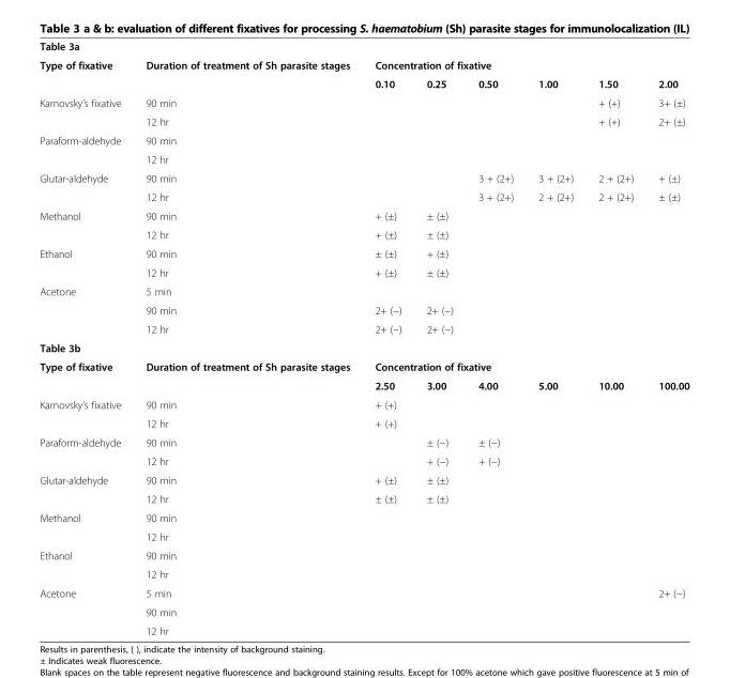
<table><tbody><tr><td colspan="8">Table 3a</td></tr><tr><td rowspan="2">Type of fixative</td><td rowspan="2">Duration of treatment of Sh parasite stages</td><td colspan="6">Concentration of fixative</td></tr><tr><td>0.10</td><td>0.25</td><td>0.50</td><td>1.00</td><td>1.50</td><td>2.00</td></tr><tr><td rowspan="2">Karnovsky’s fixative</td><td>90 min</td><td></td><td></td><td></td><td></td><td>+ (+)</td><td>3+ (±)</td></tr><tr><td>12 hr</td><td></td><td></td><td></td><td></td><td>+ (+)</td><td>2+ (±)</td></tr><tr><td rowspan="2">Paraform-aldehyde</td><td>90 min</td><td></td><td></td><td></td><td></td><td></td><td></td></tr><tr><td>12 hr</td><td></td><td></td><td></td><td></td><td></td><td></td></tr><tr><td rowspan="2">Glutar-aldehyde</td><td>90 min</td><td></td><td></td><td>3 + (2+)</td><td>3 + (2+)</td><td>2 + (2+)</td><td>+ (±)</td></tr><tr><td>12 hr</td><td></td><td></td><td>3 + (2+)</td><td>2 + (2+)</td><td>2 + (2+)</td><td>± (±)</td></tr><tr><td rowspan="2">Methanol</td><td>90 min</td><td>+ (±)</td><td>± (±)</td><td></td><td></td><td></td><td></td></tr><tr><td>12 hr</td><td>+ (±)</td><td>± (±)</td><td></td><td></td><td></td><td></td></tr><tr><td rowspan="2">Ethanol</td><td>90 min</td><td>± (±)</td><td>+ (±)</td><td></td><td></td><td></td><td></td></tr><tr><td>12 hr</td><td>+ (±)</td><td>± (±)</td><td></td><td></td><td></td><td></td></tr><tr><td rowspan="3">Acetone</td><td>5 min</td><td></td><td></td><td></td><td></td><td></td><td></td></tr><tr><td>90 min</td><td>2+ (−)</td><td>2+ (−)</td><td></td><td></td><td></td><td></td></tr><tr><td>12 hr</td><td>2+ (−)</td><td>2+ (−)</td><td></td><td></td><td></td><td></td></tr><tr><td colspan="8">Table 3b</td></tr><tr><td rowspan="2">Type of fixative</td><td>Duration of treatment of Sh parasite stages</td><td colspan="6">Concentration of fixative</td></tr><tr><td></td><td>2.50</td><td>3.00</td><td>4.00</td><td>5.00</td><td>10.00</td><td>100.00</td></tr><tr><td rowspan="2">Karnovsky’s fixative</td><td>90 min</td><td>+ (+)</td><td></td><td></td><td></td><td></td><td></td></tr><tr><td>12 hr</td><td>+ (+)</td><td></td><td></td><td></td><td></td><td></td></tr><tr><td rowspan="2">Paraform-aldehyde</td><td>90 min</td><td></td><td>± (−)</td><td>± (−)</td><td></td><td></td><td></td></tr><tr><td>12 hr</td><td></td><td>+ (−)</td><td>+ (−)</td><td></td><td></td><td></td></tr><tr><td rowspan="2">Glutar-aldehyde</td><td>90 min</td><td>+ (±)</td><td>± (±)</td><td></td><td></td><td></td><td></td></tr><tr><td>12 hr</td><td>± (±)</td><td>± (±)</td><td></td><td></td><td></td><td></td></tr><tr><td rowspan="2">Methanol</td><td>90 min</td><td></td><td></td><td></td><td></td><td></td><td></td></tr><tr><td>12 hr</td><td></td><td></td><td></td><td></td><td></td><td></td></tr><tr><td rowspan="2">Ethanol</td><td>90 min</td><td></td><td></td><td></td><td></td><td></td><td></td></tr><tr><td>12 hr</td><td></td><td></td><td></td><td></td><td></td><td></td></tr><tr><td rowspan="3">Acetone</td><td>5 min</td><td></td><td></td><td></td><td></td><td></td><td>2+ (−)</td></tr><tr><td>90 min</td><td></td><td></td><td></td><td></td><td></td><td></td></tr><tr><td>12 hr</td><td></td><td></td><td></td><td></td><td></td><td></td></tr></tbody></table>